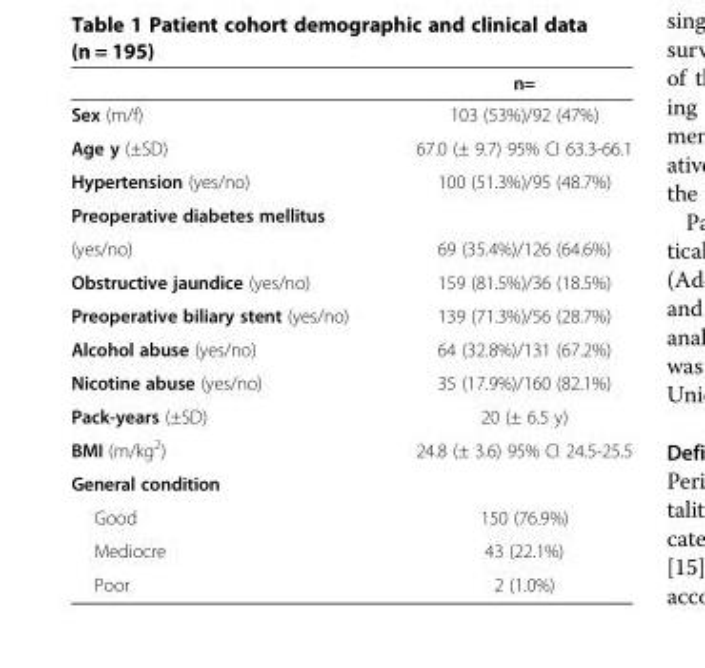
<table><thead><tr><td></td><td>n=</td></tr></thead><tbody><tr><td>Sex (m/f)</td><td>103 (53%)/92 (47%)</td></tr><tr><td>Age y (±SD)</td><td>67.0 (± 9.7) 95% CI 63.3-66.1</td></tr><tr><td>Hypertension (yes/no)</td><td>100 (51.3%)/95 (48.7%)</td></tr><tr><td colspan="2">Preoperative diabetes mellitus</td></tr><tr><td>(yes/no)</td><td>69 (35.4%)/126 (64.6%)</td></tr><tr><td>Obstructive jaundice (yes/no)</td><td>159 (81.5%)/36 (18.5%)</td></tr><tr><td>Preoperative biliary stent (yes/no)</td><td>139 (71.3%)/56 (28.7%)</td></tr><tr><td>Alcohol abuse (yes/no)</td><td>64 (32.8%)/131 (67.2%)</td></tr><tr><td>Nicotine abuse (yes/no)</td><td>35 (17.9%)/160 (82.1%)</td></tr><tr><td>Pack-years (±SD)</td><td>20 (± 6.5 y)</td></tr><tr><td>BMI (m/kg<sup>2</sup>)</td><td>24.8 (± 3.6) 95% CI 24.5-25.5</td></tr><tr><td colspan="2">General condition</td></tr><tr><td>Good</td><td>150 (76.9%)</td></tr><tr><td>Mediocre</td><td>43 (22.1%)</td></tr><tr><td>Poor</td><td>2 (1.0%)</td></tr></tbody></table>